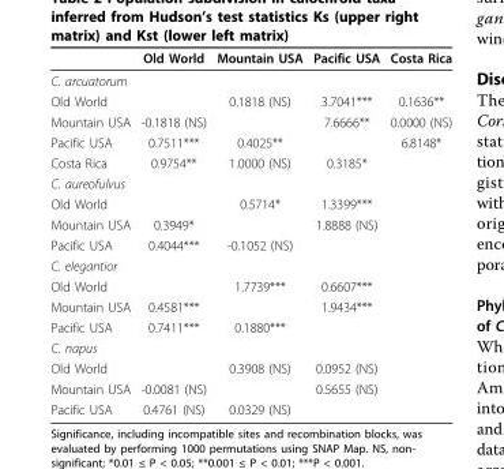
<table><thead><tr><td></td><td>Old World</td><td>Mountain USA</td><td>Pacific USA</td><td>Costa Rica</td></tr></thead><tbody><tr><td colspan="5">C. arcuatorum</td></tr><tr><td>Old World</td><td></td><td>0.1818 (NS)</td><td>3.7041***</td><td>0.1636**</td></tr><tr><td>Mountain USA</td><td>-0.1818 (NS)</td><td></td><td>7.6666**</td><td>0.0000 (NS)</td></tr><tr><td>Pacific USA</td><td>0.7511***</td><td>0.4025**</td><td></td><td>6.8148*</td></tr><tr><td>Costa Rica</td><td>0.9754**</td><td>1.0000 (NS)</td><td>0.3185*</td><td></td></tr><tr><td colspan="5">C. aureofulvus</td></tr><tr><td>Old World</td><td></td><td>0.5714*</td><td>1.3399***</td><td></td></tr><tr><td>Mountain USA</td><td>0.3949*</td><td></td><td>1.8888 (NS)</td><td></td></tr><tr><td>Pacific USA</td><td>0.4044***</td><td>-0.1052 (NS)</td><td></td><td></td></tr><tr><td colspan="5">C. elegantior</td></tr><tr><td>Old World</td><td></td><td>1.7739***</td><td>0.6607***</td><td></td></tr><tr><td>Mountain USA</td><td>0.4581***</td><td></td><td>1.9434***</td><td></td></tr><tr><td>Pacific USA</td><td>0.7411***</td><td>0.1880***</td><td></td><td></td></tr><tr><td colspan="5">C. napus</td></tr><tr><td>Old World</td><td></td><td>0.3908 (NS)</td><td>0.0952 (NS)</td><td></td></tr><tr><td>Mountain USA</td><td>-0.0081 (NS)</td><td></td><td>0.5655 (NS)</td><td></td></tr><tr><td>Pacific USA</td><td>0.4761 (NS)</td><td>0.0329 (NS)</td><td></td><td></td></tr></tbody></table>